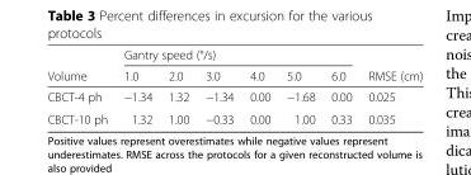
<table><thead><tr><td rowspan="2">Volume</td><td colspan="6">Gantry speed (°/s)</td><td rowspan="2">RMSE (cm)</td></tr><tr><td>1.0</td><td>2.0</td><td>3.0</td><td>4.0</td><td>5.0</td><td>6.0</td></tr></thead><tbody><tr><td>CBCT-4 ph</td><td>−1.34</td><td>1.32</td><td>−1.34</td><td>0.00</td><td>−1.68</td><td>0.00</td><td>0.025</td></tr><tr><td>CBCT-10 ph</td><td>1.32</td><td>1.00</td><td>−0.33</td><td>0.00</td><td>1.00</td><td>0.33</td><td>0.035</td></tr></tbody></table>